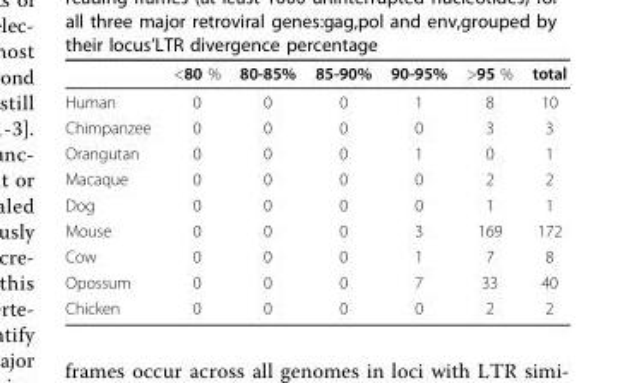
<table><thead><tr><td></td><td>&lt;80 %</td><td>80-85%</td><td>85-90%</td><td>90-95%</td><td>&gt;95 %</td><td>total</td></tr></thead><tbody><tr><td>Human</td><td>0</td><td>0</td><td>0</td><td>1</td><td>8</td><td>10</td></tr><tr><td>Chimpanzee</td><td>0</td><td>0</td><td>0</td><td>0</td><td>3</td><td>3</td></tr><tr><td>Orangutan</td><td>0</td><td>0</td><td>0</td><td>1</td><td>0</td><td>1</td></tr><tr><td>Macaque</td><td>0</td><td>0</td><td>0</td><td>0</td><td>2</td><td>2</td></tr><tr><td>Dog</td><td>0</td><td>0</td><td>0</td><td>0</td><td>1</td><td>1</td></tr><tr><td>Mouse</td><td>0</td><td>0</td><td>0</td><td>3</td><td>169</td><td>172</td></tr><tr><td>Cow</td><td>0</td><td>0</td><td>0</td><td>1</td><td>7</td><td>8</td></tr><tr><td>Opossum</td><td>0</td><td>0</td><td>0</td><td>7</td><td>33</td><td>40</td></tr><tr><td>Chicken</td><td>0</td><td>0</td><td>0</td><td>0</td><td>2</td><td>2</td></tr></tbody></table>